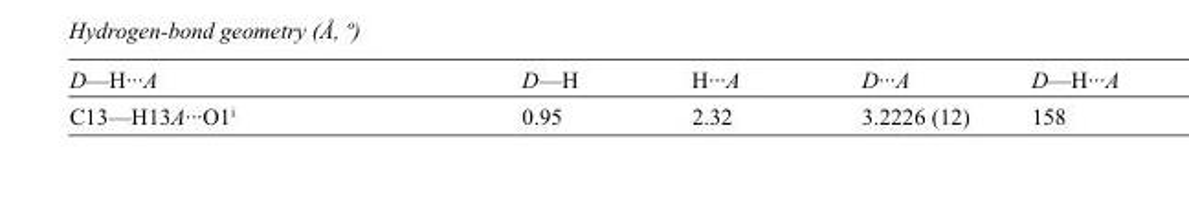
<table><tbody><tr><td>D—H···A</td><td>D—H</td><td>H···A</td><td>D···A</td><td>D—H···A</td></tr><tr><td>C13—H13A···O1<sup>i</sup></td><td>0.95</td><td>2.32</td><td>3.2226 (12)</td><td>158</td></tr></tbody></table>